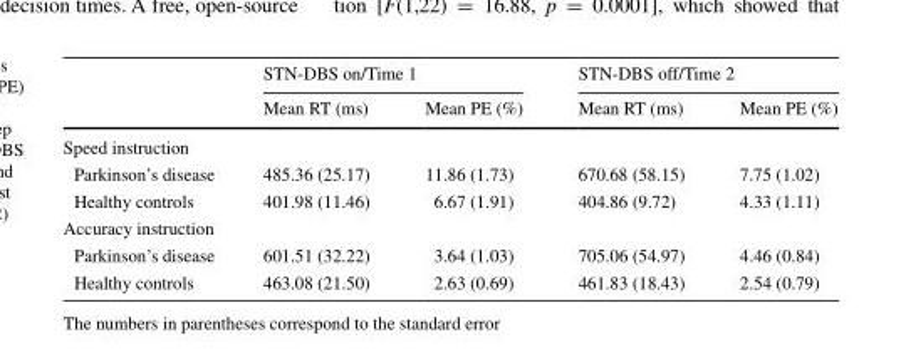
<table><thead><tr><td rowspan="2"></td><td colspan="2">STN-DBS on/Time 1</td><td colspan="2">STN-DBS off/Time 2</td></tr><tr><td>Mean RT (ms)</td><td>Mean PE (%)</td><td>Mean RT (ms)</td><td>Mean PE (%)</td></tr></thead><tbody><tr><td colspan="5">Speed instruction</td></tr><tr><td>Parkinson’s disease</td><td>485.36 (25.17)</td><td>11.86 (1.73)</td><td>670.68 (58.15)</td><td>7.75 (1.02)</td></tr><tr><td>Healthy controls</td><td>401.98 (11.46)</td><td>6.67 (1.91)</td><td>404.86 (9.72)</td><td>4.33 (1.11)</td></tr><tr><td colspan="5">Accuracy instruction</td></tr><tr><td>Parkinson’s disease</td><td>601.51 (32.22)</td><td>3.64 (1.03)</td><td>705.06 (54.97)</td><td>4.46 (0.84)</td></tr><tr><td>Healthy controls</td><td>463.08 (21.50)</td><td>2.63 (0.69)</td><td>461.83 (18.43)</td><td>2.54 (0.79)</td></tr></tbody></table>